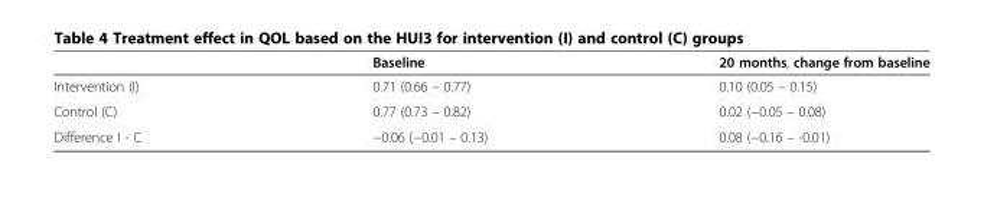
<table><thead><tr><td></td><td>Baseline</td><td>20 months, change from baseline</td></tr></thead><tbody><tr><td>Intervention (I)</td><td>0.71 (0.66 – 0.77)</td><td>0.10 (0.05 – 0.15)</td></tr><tr><td>Control (C)</td><td>0.77 (0.73 – 0.82)</td><td>0.02 (−0.05 – 0.08)</td></tr><tr><td>Difference I - C</td><td>−0.06 (−0.01 – 0.13)</td><td>0.08 (−0.16 – -0.01)</td></tr></tbody></table>